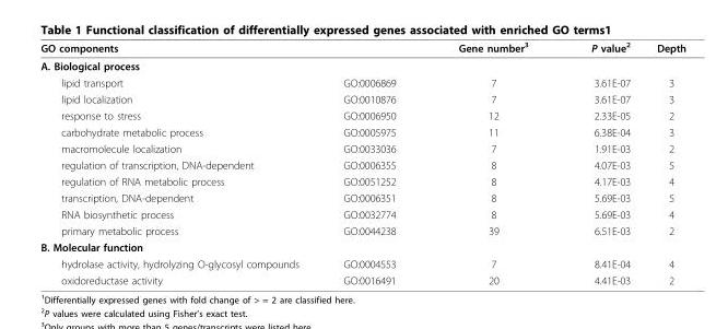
<table><thead><tr><td>GO components</td><td></td><td>Gene number<sup>3</sup></td><td>P value<sup>2</sup></td><td>Depth</td></tr></thead><tbody><tr><td colspan="5">A. Biological process</td></tr><tr><td>lipid transport</td><td>GO:0006869</td><td>7</td><td>3.61E-07</td><td>3</td></tr><tr><td>lipid localization</td><td>GO:0010876</td><td>7</td><td>3.61E-07</td><td>3</td></tr><tr><td>response to stress</td><td>GO:0006950</td><td>12</td><td>2.33E-05</td><td>2</td></tr><tr><td>carbohydrate metabolic process</td><td>GO:0005975</td><td>11</td><td>6.38E-04</td><td>3</td></tr><tr><td>macromolecule localization</td><td>GO:0033036</td><td>7</td><td>1.91E-03</td><td>2</td></tr><tr><td>regulation of transcription, DNA-dependent</td><td>GO:0006355</td><td>8</td><td>4.07E-03</td><td>5</td></tr><tr><td>regulation of RNA metabolic process</td><td>GO:0051252</td><td>8</td><td>4.17E-03</td><td>4</td></tr><tr><td>transcription, DNA-dependent</td><td>GO:0006351</td><td>8</td><td>5.69E-03</td><td>5</td></tr><tr><td>RNA biosynthetic process</td><td>GO:0032774</td><td>8</td><td>5.69E-03</td><td>4</td></tr><tr><td>primary metabolic process</td><td>GO:0044238</td><td>39</td><td>6.51E-03</td><td>2</td></tr><tr><td colspan="5">B. Molecular function</td></tr><tr><td>hydrolase activity, hydrolyzing O-glycosyl compounds</td><td>GO:0004553</td><td>7</td><td>8.41E-04</td><td>4</td></tr><tr><td>oxidoreductase activity</td><td>GO:0016491</td><td>20</td><td>4.41E-03</td><td>2</td></tr></tbody></table>